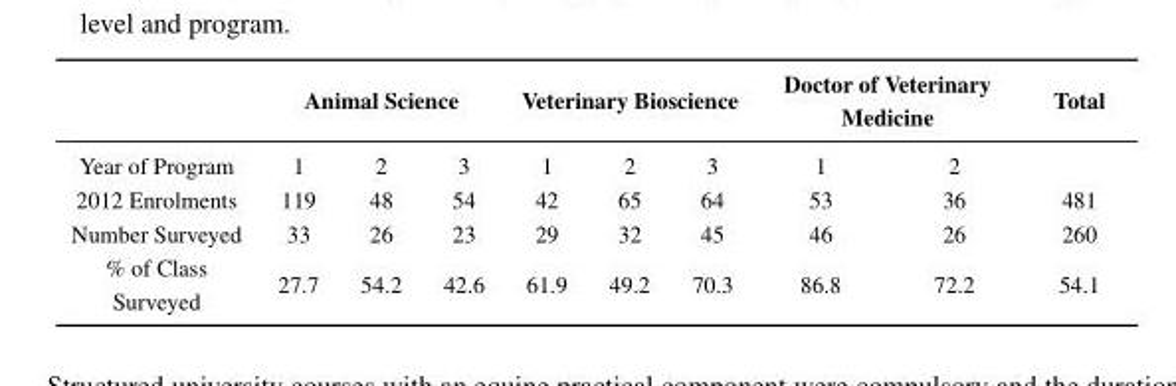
<table><thead><tr><td rowspan="2">Year of Program</td><td colspan="3">Animal Science</td><td colspan="3">Veterinary Bioscience</td><td colspan="2">Doctor of Veterinary Medicine</td><td rowspan="2">Total</td></tr><tr><td>1</td><td>2</td><td>3</td><td>1</td><td>2</td><td>3</td><td>1</td><td>2</td></tr></thead><tbody><tr><td>2012 Enrolments</td><td>119</td><td>48</td><td>54</td><td>42</td><td>65</td><td>64</td><td>53</td><td>36</td><td>481</td></tr><tr><td>Number Surveyed</td><td>33</td><td>26</td><td>23</td><td>29</td><td>32</td><td>45</td><td>46</td><td>26</td><td>260</td></tr><tr><td>% of Class Surveyed</td><td>27.7</td><td>54.2</td><td>42.6</td><td>61.9</td><td>49.2</td><td>70.3</td><td>86.8</td><td>72.2</td><td>54.1</td></tr></tbody></table>